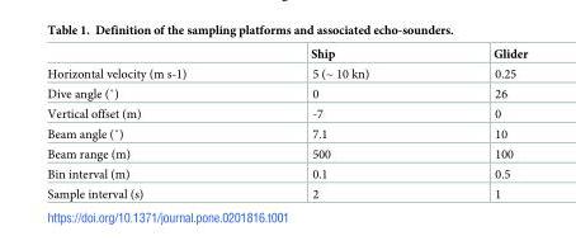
<table><thead><tr><td></td><td>Ship</td><td>Glider</td></tr></thead><tbody><tr><td>Horizontal velocity (m s-1)</td><td>5 (~ 10 kn)</td><td>0.25</td></tr><tr><td>Dive angle (˚)</td><td>0</td><td>26</td></tr><tr><td>Vertical offset (m)</td><td>-7</td><td>0</td></tr><tr><td>Beam angle (˚)</td><td>7.1</td><td>10</td></tr><tr><td>Beam range (m)</td><td>500</td><td>100</td></tr><tr><td>Bin interval (m)</td><td>0.1</td><td>0.5</td></tr><tr><td>Sample interval (s)</td><td>2</td><td>1</td></tr></tbody></table>